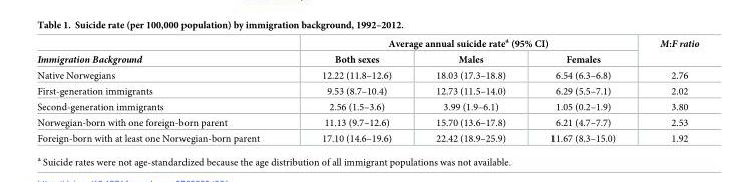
<table><thead><tr><td rowspan="2">Immigration Background</td><td colspan="3">Average annual suicide rate<sup>a</sup> (95% CI)</td><td rowspan="2">M:F ratio</td></tr><tr><td>Both sexes</td><td>Males</td><td>Females</td></tr></thead><tbody><tr><td>Native Norwegians</td><td>12.22 (11.8–12.6)</td><td>18.03 (17.3–18.8)</td><td>6.54 (6.3–6.8)</td><td>2.76</td></tr><tr><td>First-generation immigrants</td><td>9.53 (8.7–10.4)</td><td>12.73 (11.5–14.0)</td><td>6.29 (5.5–7.1)</td><td>2.02</td></tr><tr><td>Second-generation immigrants</td><td>2.56 (1.5–3.6)</td><td>3.99 (1.9–6.1)</td><td>1.05 (0.2–1.9)</td><td>3.80</td></tr><tr><td>Norwegian-born with one foreign-born parent</td><td>11.13 (9.7–12.6)</td><td>15.70 (13.6–17.8)</td><td>6.21 (4.7–7.7)</td><td>2.53</td></tr><tr><td>Foreign-born with at least one Norwegian-born parent</td><td>17.10 (14.6–19.6)</td><td>22.42 (18.9–25.9)</td><td>11.67 (8.3–15.0)</td><td>1.92</td></tr></tbody></table>